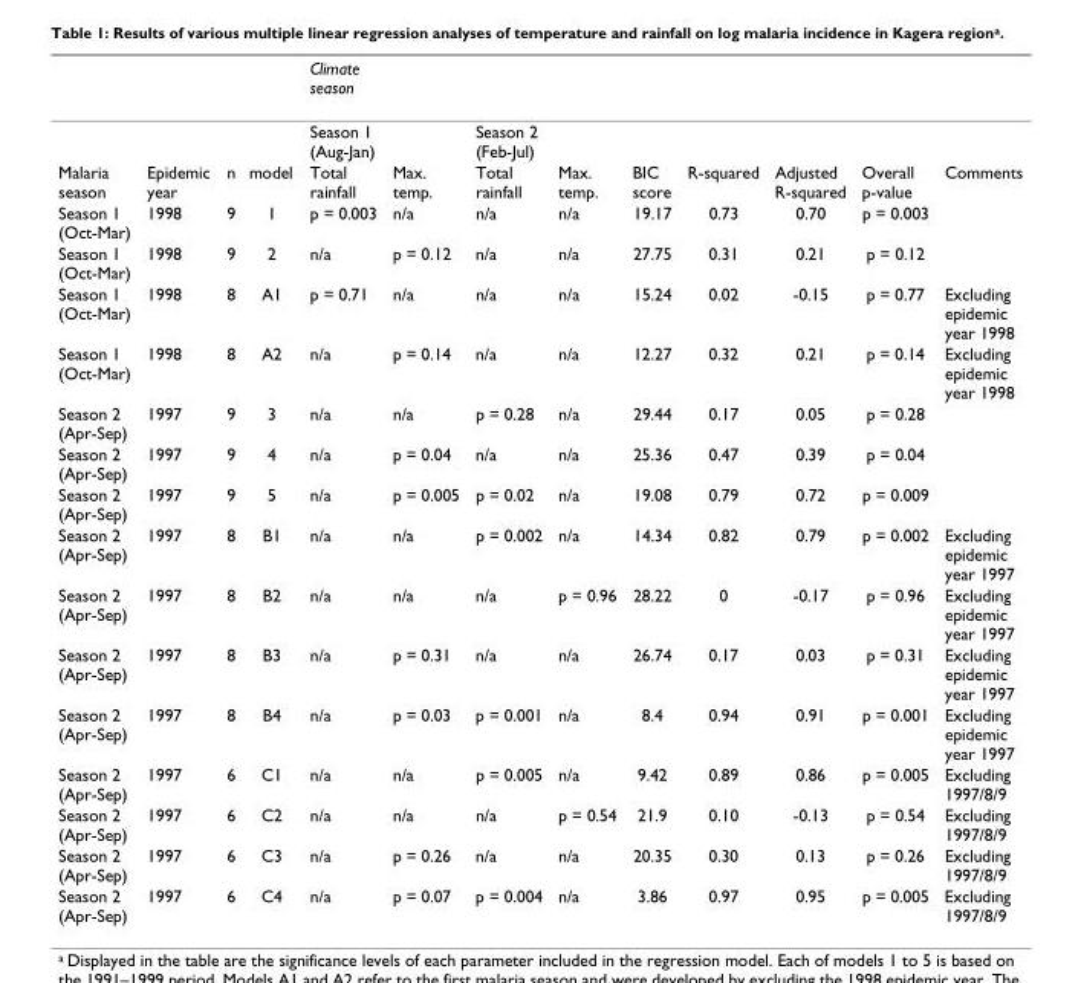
<table><thead><tr><td></td><td></td><td></td><td></td><td>Climate season</td><td></td><td></td><td></td><td></td><td></td><td></td><td></td><td></td></tr></thead><tbody><tr><td></td><td></td><td></td><td></td><td>Season 1 (Aug-Jan)</td><td></td><td>Season 2 (Feb-Jul)</td><td></td><td></td><td></td><td></td><td></td><td></td></tr><tr><td>Malaria season</td><td>Epidemic year</td><td>n</td><td>model</td><td>Total rainfall</td><td>Max. temp.</td><td>Total rainfall</td><td>Max. temp.</td><td>BIC score</td><td>R-squared</td><td>Adjusted R-squared</td><td>Overall p-value</td><td>Comments</td></tr><tr><td>Season 1 (Oct-Mar)</td><td>1998</td><td>9</td><td>1</td><td>p = 0.003</td><td>n/a</td><td>n/a</td><td>n/a</td><td>19.17</td><td>0.73</td><td>0.70</td><td>p = 0.003</td><td></td></tr><tr><td>Season 1 (Oct-Mar)</td><td>1998</td><td>9</td><td>2</td><td>n/a</td><td>p = 0.12</td><td>n/a</td><td>n/a</td><td>27.75</td><td>0.31</td><td>0.21</td><td>p = 0.12</td><td></td></tr><tr><td>Season 1 (Oct-Mar)</td><td>1998</td><td>8</td><td>A1</td><td>p = 0.71</td><td>n/a</td><td>n/a</td><td>n/a</td><td>15.24</td><td>0.02</td><td>-0.15</td><td>p = 0.77</td><td>Excluding epidemic year 1998</td></tr><tr><td>Season 1 (Oct-Mar)</td><td>1998</td><td>8</td><td>A2</td><td>n/a</td><td>p = 0.14</td><td>n/a</td><td>n/a</td><td>12.27</td><td>0.32</td><td>0.21</td><td>p = 0.14</td><td>Excluding epidemic year 1998</td></tr><tr><td>Season 2 (Apr-Sep)</td><td>1997</td><td>9</td><td>3</td><td>n/a</td><td>n/a</td><td>p = 0.28</td><td>n/a</td><td>29.44</td><td>0.17</td><td>0.05</td><td>p = 0.28</td><td></td></tr><tr><td>Season 2 (Apr-Sep)</td><td>1997</td><td>9</td><td>4</td><td>n/a</td><td>p = 0.04</td><td>n/a</td><td>n/a</td><td>25.36</td><td>0.47</td><td>0.39</td><td>p = 0.04</td><td></td></tr><tr><td>Season 2 (Apr-Sep)</td><td>1997</td><td>9</td><td>5</td><td>n/a</td><td>p = 0.005</td><td>p = 0.02</td><td>n/a</td><td>19.08</td><td>0.79</td><td>0.72</td><td>p = 0.009</td><td></td></tr><tr><td>Season 2 (Apr-Sep)</td><td>1997</td><td>8</td><td>B1</td><td>n/a</td><td>n/a</td><td>p = 0.002</td><td>n/a</td><td>14.34</td><td>0.82</td><td>0.79</td><td>p = 0.002</td><td>Excluding epidemic year 1997</td></tr><tr><td>Season 2 (Apr-Sep)</td><td>1997</td><td>8</td><td>B2</td><td>n/a</td><td>n/a</td><td>n/a</td><td>p = 0.96</td><td>28.22</td><td>0</td><td>-0.17</td><td>p = 0.96</td><td>Excluding epidemic year 1997</td></tr><tr><td>Season 2 (Apr-Sep)</td><td>1997</td><td>8</td><td>B3</td><td>n/a</td><td>p = 0.31</td><td>n/a</td><td>n/a</td><td>26.74</td><td>0.17</td><td>0.03</td><td>p = 0.31</td><td>Excluding epidemic year 1997</td></tr><tr><td>Season 2 (Apr-Sep)</td><td>1997</td><td>8</td><td>B4</td><td>n/a</td><td>p = 0.03</td><td>p = 0.001</td><td>n/a</td><td>8.4</td><td>0.94</td><td>0.91</td><td>p = 0.001</td><td>Excluding epidemic year 1997</td></tr><tr><td>Season 2 (Apr-Sep)</td><td>1997</td><td>6</td><td>C1</td><td>n/a</td><td>n/a</td><td>p = 0.005</td><td>n/a</td><td>9.42</td><td>0.89</td><td>0.86</td><td>p = 0.005</td><td>Excluding 1997/8/9</td></tr><tr><td>Season 2 (Apr-Sep)</td><td>1997</td><td>6</td><td>C2</td><td>n/a</td><td>n/a</td><td>n/a</td><td>p = 0.54</td><td>21.9</td><td>0.10</td><td>-0.13</td><td>p = 0.54</td><td>Excluding 1997/8/9</td></tr><tr><td>Season 2 (Apr-Sep)</td><td>1997</td><td>6</td><td>C3</td><td>n/a</td><td>p = 0.26</td><td>n/a</td><td>n/a</td><td>20.35</td><td>0.30</td><td>0.13</td><td>p = 0.26</td><td>Excluding 1997/8/9</td></tr><tr><td>Season 2 (Apr-Sep)</td><td>1997</td><td>6</td><td>C4</td><td>n/a</td><td>p = 0.07</td><td>p = 0.004</td><td>n/a</td><td>3.86</td><td>0.97</td><td>0.95</td><td>p = 0.005</td><td>Excluding 1997/8/9</td></tr></tbody></table>